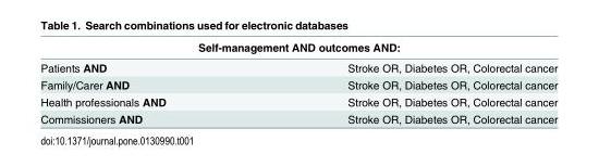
<table><thead><tr><td colspan="2">Self-management AND outcomes AND:</td></tr><tr><td>Patients AND</td><td>Stroke OR, Diabetes OR, Colorectal cancer</td></tr></thead><tbody><tr><td>Family/Carer AND</td><td>Stroke OR, Diabetes OR, Colorectal cancer</td></tr><tr><td>Health professionals AND</td><td>Stroke OR, Diabetes OR, Colorectal cancer</td></tr><tr><td>Commissioners AND</td><td>Stroke OR, Diabetes OR, Colorectal cancer</td></tr></tbody></table>